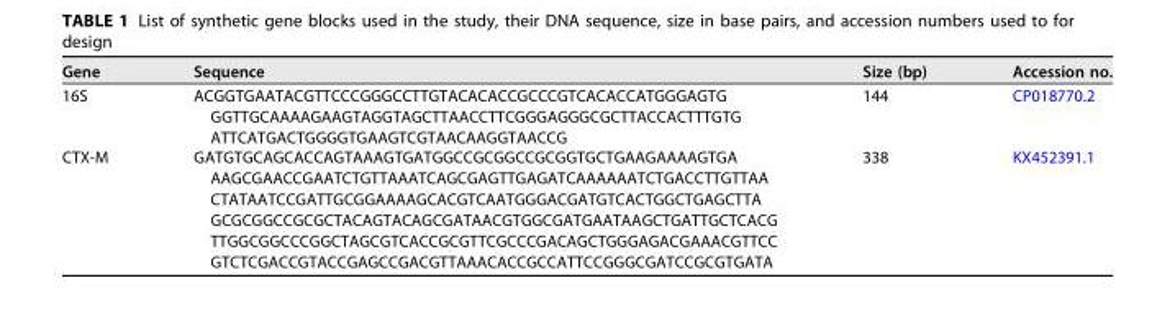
<table><thead><tr><td>Gene</td><td>Sequence</td><td>Size (bp)</td><td>Accession no.</td></tr></thead><tbody><tr><td>16S</td><td>ACGGTGAATACGTTCCCGGGCCTTGTACACACCGCCCGTCACACCATGGGAGTG GGTTGCAAAAGAAGTAGGTAGCTTAACCTTCGGGAGGGCGCTTACCACTTTGTG ATTCATGACTGGGGTGAAGTCGTAACAAGGTAACCG</td><td>144</td><td>CP018770.2</td></tr><tr><td>CTX-M</td><td>GATGTGCAGCACCAGTAAAGTGATGGCCGCGGCCGCGGTGCTGAAGAAAAGTGA AAGCGAACCGAATCTGTTAAATCAGCGAGTTGAGATCAAAAAATCTGACCTTGTTAA CTATAATCCGATTGCGGAAAAGCACGTCAATGGGACGATGTCACTGGCTGAGCTTA GCGCGGCCGCGCTACAGTACAGCGATAACGTGGCGATGAATAAGCTGATTGCTCACG TTGGCGGCCCGGCTAGCGTCACCGCGTTCGCCCGACAGCTGGGAGACGAAACGTTCC GTCTCGACCGTACCGAGCCGACGTTAAACACCGCCATTCCGGGCGATCCGCGTGATA</td><td>338</td><td>KX452391.1</td></tr></tbody></table>